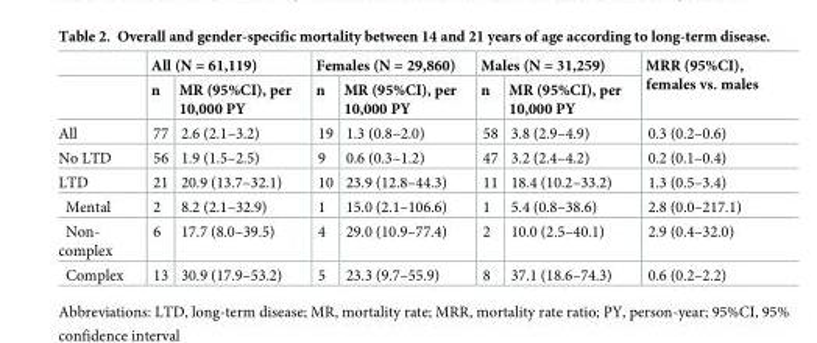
<table><thead><tr><td rowspan="2"></td><td colspan="2">All (N = 61,119)</td><td colspan="2">Females (N = 29,860)</td><td colspan="2">Males (N = 31,259)</td><td rowspan="2">MRR (95%CI), females vs. males</td></tr><tr><td>n</td><td>MR (95%CI), per 10,000 PY</td><td>n</td><td>MR (95%CI), per 10,000 PY</td><td>n</td><td>MR (95%CI), per 10,000 PY</td></tr></thead><tbody><tr><td>All</td><td>77</td><td>2.6 (2.1–3.2)</td><td>19</td><td>1.3 (0.8–2.0)</td><td>58</td><td>3.8 (2.9–4.9)</td><td>0.3 (0.2–0.6)</td></tr><tr><td>No LTD</td><td>56</td><td>1.9 (1.5–2.5)</td><td>9</td><td>0.6 (0.3–1.2)</td><td>47</td><td>3.2 (2.4–4.2)</td><td>0.2 (0.1–0.4)</td></tr><tr><td>LTD</td><td>21</td><td>20.9 (13.7–32.1)</td><td>10</td><td>23.9 (12.8–44.3)</td><td>11</td><td>18.4 (10.2–33.2)</td><td>1.3 (0.5–3.4)</td></tr><tr><td>Mental</td><td>2</td><td>8.2 (2.1–32.9)</td><td>1</td><td>15.0 (2.1–106.6)</td><td>1</td><td>5.4 (0.8–38.6)</td><td>2.8 (0.0–217.1)</td></tr><tr><td>Non- complex</td><td>6</td><td>17.7 (8.0–39.5)</td><td>4</td><td>29.0 (10.9–77.4)</td><td>2</td><td>10.0 (2.5–40.1)</td><td>2.9 (0.4–32.0)</td></tr><tr><td>Complex</td><td>13</td><td>30.9 (17.9–53.2)</td><td>5</td><td>23.3 (9.7–55.9)</td><td>8</td><td>37.1 (18.6–74.3)</td><td>0.6 (0.2–2.2)</td></tr></tbody></table>